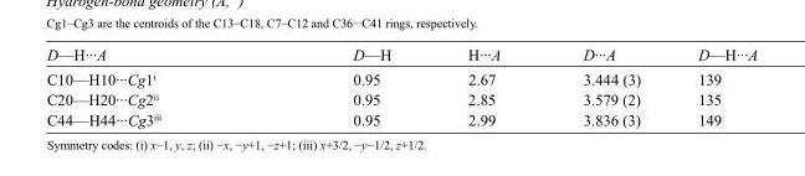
<table><tbody><tr><td>D—H···A</td><td>D—H</td><td>H···A</td><td>D···A</td><td>D—H···A</td></tr><tr><td>C10—H10···Cg1<sup>i</sup></td><td>0.95</td><td>2.67</td><td>3.444 (3)</td><td>139</td></tr><tr><td>C20—H20···Cg2<sup>ii</sup></td><td>0.95</td><td>2.85</td><td>3.579 (2)</td><td>135</td></tr><tr><td>C44—H44···Cg3<sup>iii</sup></td><td>0.95</td><td>2.99</td><td>3.836 (3)</td><td>149</td></tr></tbody></table>